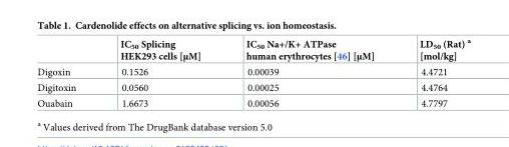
<table><thead><tr><td></td><td>IC<sub>50</sub> Splicing HEK293 cells [μM]</td><td>IC<sub>50</sub> Na+/K+ ATPase human erythrocytes [46] [μM]</td><td>LD<sub>50</sub> (Rat) <sup>a</sup> [mol/kg]</td></tr></thead><tbody><tr><td>Digoxin</td><td>0.1526</td><td>0.00039</td><td>4.4721</td></tr><tr><td>Digitoxin</td><td>0.0560</td><td>0.00025</td><td>4.4764</td></tr><tr><td>Ouabain</td><td>1.6673</td><td>0.00056</td><td>4.7797</td></tr></tbody></table>